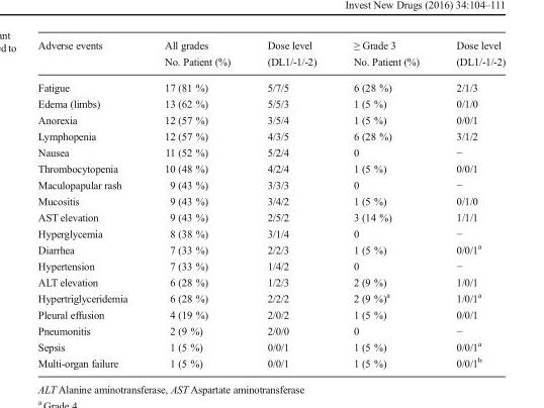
<table><thead><tr><td>Adverse events</td><td>All grades No. Patient (%)</td><td>Dose level (DL1/-1/-2)</td><td>≥ Grade 3 No. Patient (%)</td><td>Dose level (DL1/-1/-2)</td></tr></thead><tbody><tr><td>Fatigue</td><td>17 (81 %)</td><td>5/7/5</td><td>6 (28 %)</td><td>2/1/3</td></tr><tr><td>Edema (limbs)</td><td>13 (62 %)</td><td>5/5/3</td><td>1 (5 %)</td><td>0/1/0</td></tr><tr><td>Anorexia</td><td>12 (57 %)</td><td>3/5/4</td><td>1 (5 %)</td><td>0/0/1</td></tr><tr><td>Lymphopenia</td><td>12 (57 %)</td><td>4/3/5</td><td>6 (28 %)</td><td>3/1/2</td></tr><tr><td>Nausea</td><td>11 (52 %)</td><td>5/2/4</td><td>0</td><td>−</td></tr><tr><td>Thrombocytopenia</td><td>10 (48 %)</td><td>4/2/4</td><td>1 (5 %)</td><td>0/0/1</td></tr><tr><td>Maculopapular rash</td><td>9 (43 %)</td><td>3/3/3</td><td>0</td><td>−</td></tr><tr><td>Mucositis</td><td>9 (43 %)</td><td>3/4/2</td><td>1 (5 %)</td><td>0/1/0</td></tr><tr><td>AST elevation</td><td>9 (43 %)</td><td>2/5/2</td><td>3 (14 %)</td><td>1/1/1</td></tr><tr><td>Hyperglycemia</td><td>8 (38 %)</td><td>3/1/4</td><td>0</td><td>−</td></tr><tr><td>Diarrhea</td><td>7 (33 %)</td><td>2/2/3</td><td>1 (5 %)</td><td>0/0/1<sup>a</sup></td></tr><tr><td>Hypertension</td><td>7 (33 %)</td><td>1/4/2</td><td>0</td><td>−</td></tr><tr><td>ALT elevation</td><td>6 (28 %)</td><td>1/2/3</td><td>2 (9 %)</td><td>1/0/1</td></tr><tr><td>Hypertriglyceridemia</td><td>6 (28 %)</td><td>2/2/2</td><td>2 (9 %)<sup>a</sup></td><td>1/0/1<sup>a</sup></td></tr><tr><td>Pleural effusion</td><td>4 (19 %)</td><td>2/0/2</td><td>1 (5 %)</td><td>0/0/1</td></tr><tr><td>Pneumonitis</td><td>2 (9 %)</td><td>2/0/0</td><td>0</td><td>−</td></tr><tr><td>Sepsis</td><td>1 (5 %)</td><td>0/0/1</td><td>1 (5 %)</td><td>0/0/1<sup>a</sup></td></tr><tr><td>Multi-organ failure</td><td>1 (5 %)</td><td>0/0/1</td><td>1 (5 %)</td><td>0/0/1<sup>b</sup></td></tr></tbody></table>